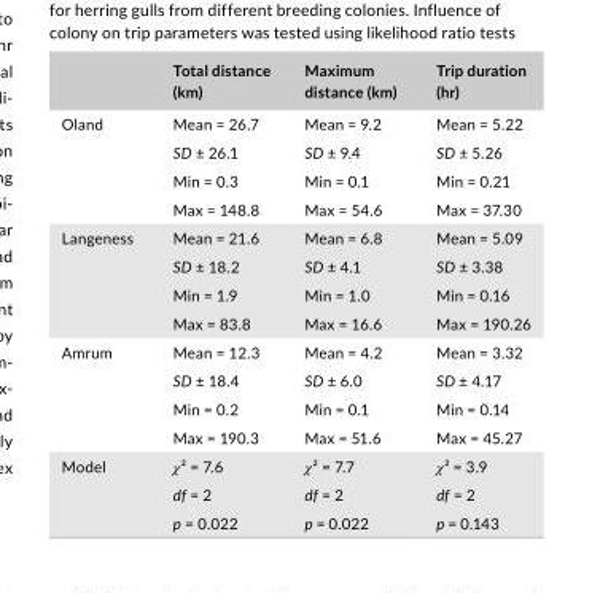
<table><thead><tr><td></td><td>Total distance (km)</td><td>Maximum distance (km)</td><td>Trip duration (hr)</td></tr></thead><tbody><tr><td rowspan="4">Oland</td><td>Mean = 26.7</td><td>Mean = 9.2</td><td>Mean = 5.22</td></tr><tr><td>SD ± 26.1</td><td>SD ± 9.4</td><td>SD ± 5.26</td></tr><tr><td>Min = 0.3</td><td>Min = 0.1</td><td>Min = 0.21</td></tr><tr><td>Max = 148.8</td><td>Max = 54.6</td><td>Max = 37.30</td></tr><tr><td rowspan="4">Langeness</td><td>Mean = 21.6</td><td>Mean = 6.8</td><td>Mean = 5.09</td></tr><tr><td>SD ± 18.2</td><td>SD ± 4.1</td><td>SD ± 3.38</td></tr><tr><td>Min = 1.9</td><td>Min = 1.0</td><td>Min = 0.16</td></tr><tr><td>Max = 83.8</td><td>Max = 16.6</td><td>Max = 190.26</td></tr><tr><td rowspan="4">Amrum</td><td>Mean = 12.3</td><td>Mean = 4.2</td><td>Mean = 3.32</td></tr><tr><td>SD ± 18.4</td><td>SD ± 6.0</td><td>SD ± 4.17</td></tr><tr><td>Min = 0.2</td><td>Min = 0.1</td><td>Min = 0.14</td></tr><tr><td>Max = 190.3</td><td>Max = 51.6</td><td>Max = 45.27</td></tr><tr><td rowspan="3">Model</td><td>χ² = 7.6</td><td>χ² = 7.7</td><td>χ² = 3.9</td></tr><tr><td>df = 2</td><td>df = 2</td><td>df = 2</td></tr><tr><td>p = 0.022</td><td>p = 0.022</td><td>p = 0.143</td></tr></tbody></table>